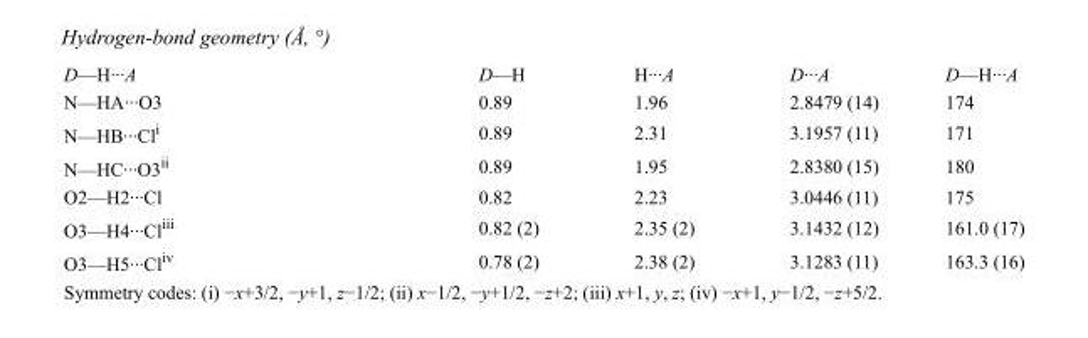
<table><tbody><tr><td>D—H···A</td><td>D—H</td><td>H···A</td><td>D···A</td><td>D—H···A</td></tr><tr><td>N—HA···O3</td><td>0.89</td><td>1.96</td><td>2.8479 (14)</td><td>174</td></tr><tr><td>N—HB···Cl<sup>i</sup></td><td>0.89</td><td>2.31</td><td>3.1957 (11)</td><td>171</td></tr><tr><td>N—HC···O3<sup>ii</sup></td><td>0.89</td><td>1.95</td><td>2.8380 (15)</td><td>180</td></tr><tr><td>O2—H2···Cl</td><td>0.82</td><td>2.23</td><td>3.0446 (11)</td><td>175</td></tr><tr><td>O3—H4···Cl<sup>iii</sup></td><td>0.82 (2)</td><td>2.35 (2)</td><td>3.1432 (12)</td><td>161.0 (17)</td></tr><tr><td>O3—H5···Cl<sup>iv</sup></td><td>0.78 (2)</td><td>2.38 (2)</td><td>3.1283 (11)</td><td>163.3 (16)</td></tr></tbody></table>